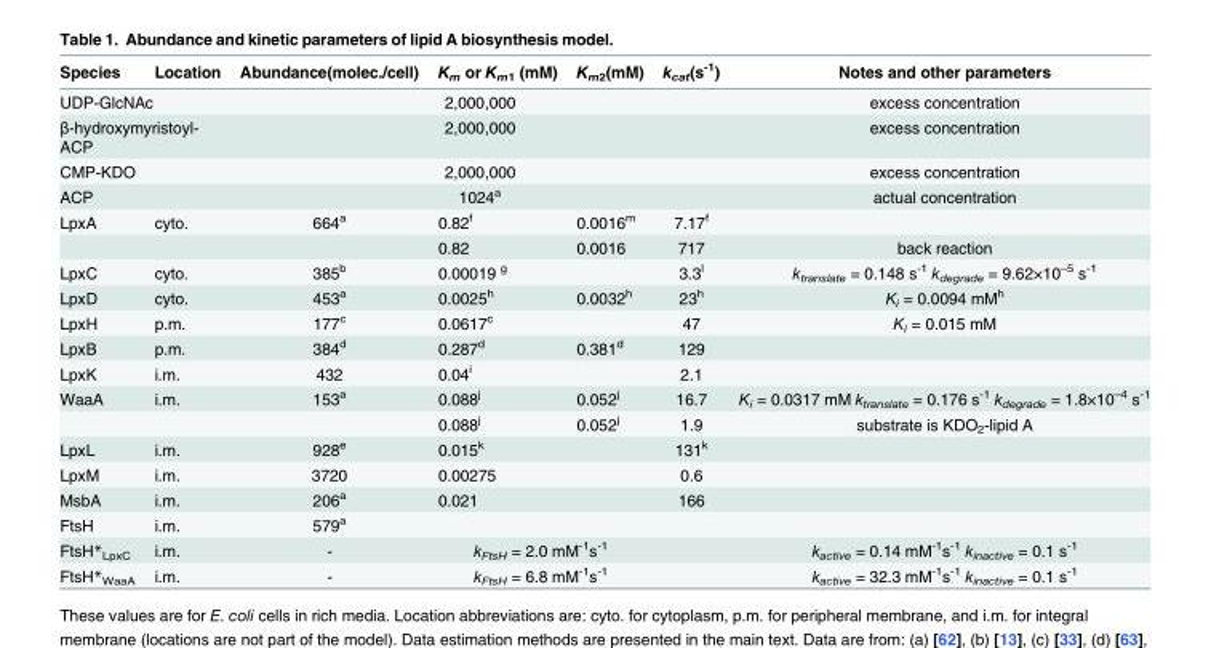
<table><thead><tr><td>Species</td><td>Location</td><td>Abundance(molec./cell)</td><td>K<sub>m</sub> or K<sub>m1</sub> (mM)</td><td>K<sub>m2</sub>(mM)</td><td>k<sub>cat</sub>(s<sup>-1</sup>)</td><td>Notes and other parameters</td></tr></thead><tbody><tr><td colspan="2">UDP-GlcNAc</td><td colspan="4">2,000,000</td><td>excess concentration</td></tr><tr><td colspan="2">β-hydroxymyristoyl- ACP</td><td colspan="4">2,000,000</td><td>excess concentration</td></tr><tr><td colspan="2">CMP-KDO</td><td colspan="4">2,000,000</td><td>excess concentration</td></tr><tr><td colspan="2">ACP</td><td colspan="4">1024<sup>a</sup></td><td>actual concentration</td></tr><tr><td rowspan="2">LpxA</td><td>cyto.</td><td>664<sup>a</sup></td><td>0.82<sup>f</sup></td><td>0.0016<sup>m</sup></td><td>7.17<sup>f</sup></td><td></td></tr><tr><td></td><td></td><td>0.82</td><td>0.0016</td><td>717</td><td>back reaction</td></tr><tr><td>LpxC</td><td>cyto.</td><td>385<sup>b</sup></td><td>0.00019 <sup>g</sup></td><td></td><td>3.3<sup>l</sup></td><td>k<sub>translate</sub> = 0.148 s<sup>-1</sup> k<sub>degrade</sub> = 9.62×10<sup>–5</sup> s<sup>-1</sup></td></tr><tr><td>LpxD</td><td>cyto.</td><td>453<sup>a</sup></td><td>0.0025<sup>h</sup></td><td>0.0032<sup>h</sup></td><td>23<sup>h</sup></td><td>K<sub>i</sub> = 0.0094 mM<sup>h</sup></td></tr><tr><td>LpxH</td><td>p.m.</td><td>177<sup>c</sup></td><td>0.0617<sup>c</sup></td><td></td><td>47</td><td>K<sub>i</sub> = 0.015 mM</td></tr><tr><td>LpxB</td><td>p.m.</td><td>384<sup>d</sup></td><td>0.287<sup>d</sup></td><td>0.381<sup>d</sup></td><td>129</td><td></td></tr><tr><td>LpxK</td><td>i.m.</td><td>432</td><td>0.04<sup>i</sup></td><td></td><td>2.1</td><td></td></tr><tr><td rowspan="2">WaaA</td><td>i.m.</td><td>153<sup>a</sup></td><td>0.088<sup>j</sup></td><td>0.052<sup>j</sup></td><td>16.7</td><td>K<sub>i</sub> = 0.0317 mM k<sub>translate</sub> = 0.176 s<sup>-1</sup> k<sub>degrade</sub> = 1.8×10<sup>–4</sup> s<sup>-1</sup></td></tr><tr><td></td><td></td><td>0.088<sup>j</sup></td><td>0.052<sup>j</sup></td><td>1.9</td><td>substrate is KDO<sub>2</sub>-lipid A</td></tr><tr><td>LpxL</td><td>i.m.</td><td>928<sup>e</sup></td><td>0.015<sup>k</sup></td><td></td><td>131<sup>k</sup></td><td></td></tr><tr><td>LpxM</td><td>i.m.</td><td>3720</td><td>0.00275</td><td></td><td>0.6</td><td></td></tr><tr><td>MsbA</td><td>i.m.</td><td>206<sup>a</sup></td><td>0.021</td><td></td><td>166</td><td></td></tr><tr><td>FtsH</td><td>i.m.</td><td>579<sup>a</sup></td><td></td><td></td><td></td><td></td></tr><tr><td>FtsH*<sub>LpxC</sub></td><td>i.m.</td><td>-</td><td colspan="2">k<sub>FtsH</sub> = 2.0 mM<sup>-1</sup>s<sup>-1</sup></td><td></td><td>k<sub>active</sub> = 0.14 mM<sup>-1</sup>s<sup>-1</sup> k<sub>inactive</sub> = 0.1 s<sup>-1</sup></td></tr><tr><td>FtsH*<sub>WaaA</sub></td><td>i.m.</td><td>-</td><td colspan="2">k<sub>FtsH</sub> = 6.8 mM<sup>-1</sup>s<sup>-1</sup></td><td></td><td>k<sub>active</sub> = 32.3 mM<sup>-1</sup>s<sup>-1</sup> k<sub>inactive</sub> = 0.1 s<sup>-1</sup></td></tr></tbody></table>